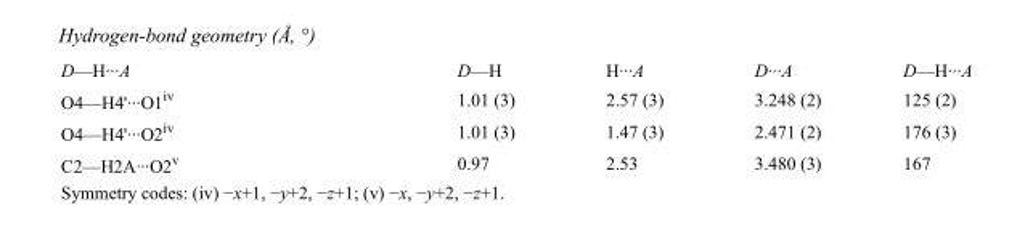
<table><tbody><tr><td>D—H···A</td><td>D—H</td><td>H···A</td><td>D···A</td><td>D—H···A</td></tr><tr><td>O4—H4&#x27;···O1<sup>iv</sup></td><td>1.01 (3)</td><td>2.57 (3)</td><td>3.248 (2)</td><td>125 (2)</td></tr><tr><td>O4—H4&#x27;···O2<sup>iv</sup></td><td>1.01 (3)</td><td>1.47 (3)</td><td>2.471 (2)</td><td>176 (3)</td></tr><tr><td>C2—H2A···O2<sup>v</sup></td><td>0.97</td><td>2.53</td><td>3.480 (3)</td><td>167</td></tr></tbody></table>